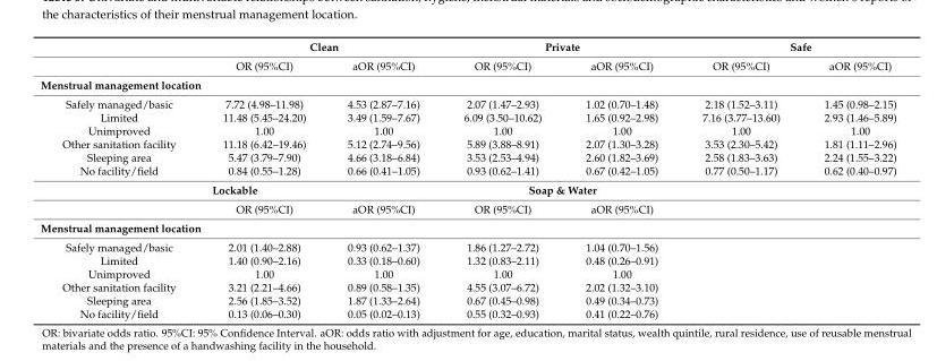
<table><thead><tr><td rowspan="2"></td><td colspan="2">Clean</td><td colspan="2">Private</td><td colspan="2">Safe</td></tr><tr><td>OR (95%CI)</td><td>aOR (95%CI)</td><td>OR (95%CI)</td><td>aOR (95%CI)</td><td>OR (95%CI)</td><td>aOR (95%CI)</td></tr></thead><tbody><tr><td colspan="7">Menstrual management location</td></tr><tr><td>Safely managed/basic</td><td>7.72 (4.98–11.98)</td><td>4.53 (2.87–7.16)</td><td>2.07 (1.47–2.93)</td><td>1.02 (0.70–1.48)</td><td>2.18 (1.52–3.11)</td><td>1.45 (0.98–2.15)</td></tr><tr><td>Limited</td><td>11.48 (5.45–24.20)</td><td>3.49 (1.59–7.67)</td><td>6.09 (3.50–10.62)</td><td>1.65 (0.92–2.98)</td><td>7.16 (3.77–13.60)</td><td>2.93 (1.46–5.89)</td></tr><tr><td>Unimproved</td><td>1.00</td><td>1.00</td><td>1.00</td><td>1.00</td><td>1.00</td><td>1.00</td></tr><tr><td>Other sanitation facility</td><td>11.18 (6.42–19.46)</td><td>5.12 (2.74–9.56)</td><td>5.89 (3.88–8.91)</td><td>2.07 (1.30–3.28)</td><td>3.53 (2.30–5.42)</td><td>1.81 (1.11–2.96)</td></tr><tr><td>Sleeping area</td><td>5.47 (3.79–7.90)</td><td>4.66 (3.18–6.84)</td><td>3.53 (2.53–4.94)</td><td>2.60 (1.82–3.69)</td><td>2.58 (1.83–3.63)</td><td>2.24 (1.55–3.22)</td></tr><tr><td rowspan="3">No facility/field</td><td>0.84 (0.55–1.28)</td><td>0.66 (0.41–1.05)</td><td>0.93 (0.62–1.41)</td><td>0.67 (0.42–1.05)</td><td>0.77 (0.50–1.17)</td><td>0.62 (0.40–0.97)</td></tr><tr><td colspan="2">Lockable</td><td colspan="2">Soap &amp; Water</td><td colspan="2"></td></tr><tr><td>OR (95%CI)</td><td>aOR (95%CI)</td><td>OR (95%CI)</td><td>aOR (95%CI)</td><td></td><td></td></tr><tr><td colspan="7">Menstrual management location</td></tr><tr><td>Safely managed/basic</td><td>2.01 (1.40–2.88)</td><td>0.93 (0.62–1.37)</td><td>1.86 (1.27–2.72)</td><td>1.04 (0.70–1.56)</td><td></td><td></td></tr><tr><td>Limited</td><td>1.40 (0.90–2.16)</td><td>0.33 (0.18–0.60)</td><td>1.32 (0.83–2.11)</td><td>0.48 (0.26–0.91)</td><td></td><td></td></tr><tr><td>Unimproved</td><td>1.00</td><td>1.00</td><td>1.00</td><td>1.00</td><td></td><td></td></tr><tr><td>Other sanitation facility</td><td>3.21 (2.21–4.66)</td><td>0.89 (0.58–1.35)</td><td>4.55 (3.07–6.72)</td><td>2.02 (1.32–3.10)</td><td></td><td></td></tr><tr><td>Sleeping area</td><td>2.56 (1.85–3.52)</td><td>1.87 (1.33–2.64)</td><td>0.67 (0.45–0.98)</td><td>0.49 (0.34–0.73)</td><td></td><td></td></tr><tr><td>No facility/field</td><td>0.13 (0.06–0.30)</td><td>0.05 (0.02–0.13)</td><td>0.55 (0.32–0.93)</td><td>0.41 (0.22–0.76)</td><td></td><td></td></tr></tbody></table>